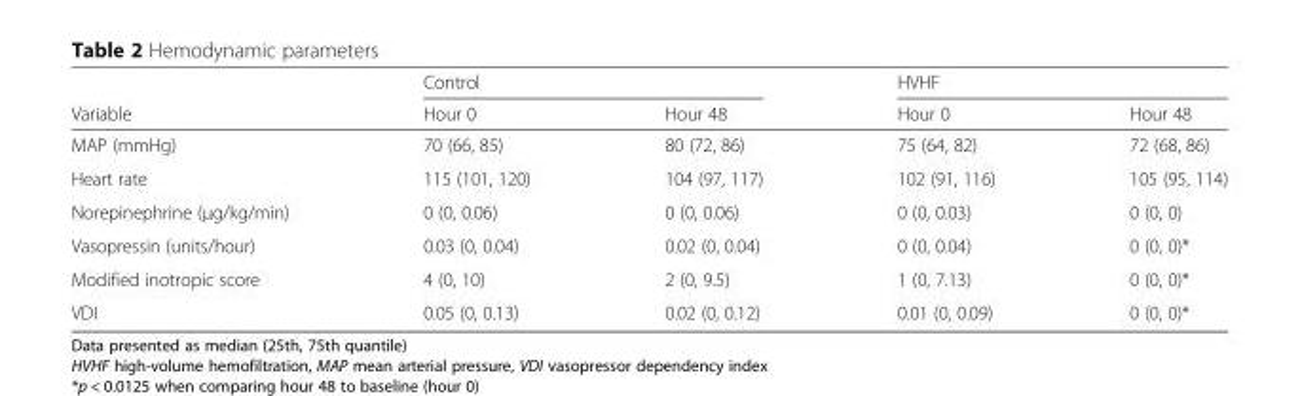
<table><thead><tr><td rowspan="2">Variable</td><td colspan="2">Control</td><td colspan="2">HVHF</td></tr><tr><td>Hour 0</td><td>Hour 48</td><td>Hour 0</td><td>Hour 48</td></tr></thead><tbody><tr><td>MAP (mmHg)</td><td>70 (66, 85)</td><td>80 (72, 86)</td><td>75 (64, 82)</td><td>72 (68, 86)</td></tr><tr><td>Heart rate</td><td>115 (101, 120)</td><td>104 (97, 117)</td><td>102 (91, 116)</td><td>105 (95, 114)</td></tr><tr><td>Norepinephrine (μg/kg/min)</td><td>0 (0, 0.06)</td><td>0 (0, 0.06)</td><td>0 (0, 0.03)</td><td>0 (0, 0)</td></tr><tr><td>Vasopressin (units/hour)</td><td>0.03 (0, 0.04)</td><td>0.02 (0, 0.04)</td><td>0 (0, 0.04)</td><td>0 (0, 0)*</td></tr><tr><td>Modified inotropic score</td><td>4 (0, 10)</td><td>2 (0, 9.5)</td><td>1 (0, 7.13)</td><td>0 (0, 0)*</td></tr><tr><td>VDI</td><td>0.05 (0, 0.13)</td><td>0.02 (0, 0.12)</td><td>0.01 (0, 0.09)</td><td>0 (0, 0)*</td></tr></tbody></table>